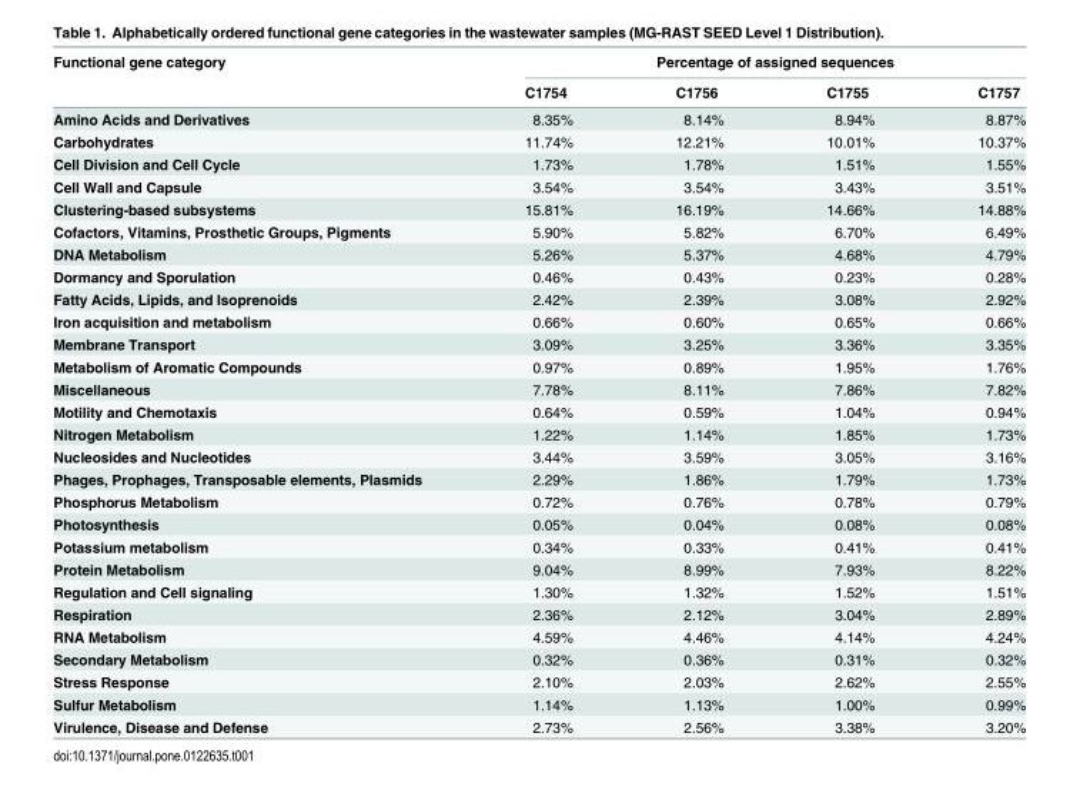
<table><thead><tr><td rowspan="2">Functional gene category</td><td colspan="4">Percentage of assigned sequences</td></tr><tr><td>C1754</td><td>C1756</td><td>C1755</td><td>C1757</td></tr></thead><tbody><tr><td>Amino Acids and Derivatives</td><td>8.35%</td><td>8.14%</td><td>8.94%</td><td>8.87%</td></tr><tr><td>Carbohydrates</td><td>11.74%</td><td>12.21%</td><td>10.01%</td><td>10.37%</td></tr><tr><td>Cell Division and Cell Cycle</td><td>1.73%</td><td>1.78%</td><td>1.51%</td><td>1.55%</td></tr><tr><td>Cell Wall and Capsule</td><td>3.54%</td><td>3.54%</td><td>3.43%</td><td>3.51%</td></tr><tr><td>Clustering-based subsystems</td><td>15.81%</td><td>16.19%</td><td>14.66%</td><td>14.88%</td></tr><tr><td>Cofactors, Vitamins, Prosthetic Groups, Pigments</td><td>5.90%</td><td>5.82%</td><td>6.70%</td><td>6.49%</td></tr><tr><td>DNA Metabolism</td><td>5.26%</td><td>5.37%</td><td>4.68%</td><td>4.79%</td></tr><tr><td>Dormancy and Sporulation</td><td>0.46%</td><td>0.43%</td><td>0.23%</td><td>0.28%</td></tr><tr><td>Fatty Acids, Lipids, and Isoprenoids</td><td>2.42%</td><td>2.39%</td><td>3.08%</td><td>2.92%</td></tr><tr><td>Iron acquisition and metabolism</td><td>0.66%</td><td>0.60%</td><td>0.65%</td><td>0.66%</td></tr><tr><td>Membrane Transport</td><td>3.09%</td><td>3.25%</td><td>3.36%</td><td>3.35%</td></tr><tr><td>Metabolism of Aromatic Compounds</td><td>0.97%</td><td>0.89%</td><td>1.95%</td><td>1.76%</td></tr><tr><td>Miscellaneous</td><td>7.78%</td><td>8.11%</td><td>7.86%</td><td>7.82%</td></tr><tr><td>Motility and Chemotaxis</td><td>0.64%</td><td>0.59%</td><td>1.04%</td><td>0.94%</td></tr><tr><td>Nitrogen Metabolism</td><td>1.22%</td><td>1.14%</td><td>1.85%</td><td>1.73%</td></tr><tr><td>Nucleosides and Nucleotides</td><td>3.44%</td><td>3.59%</td><td>3.05%</td><td>3.16%</td></tr><tr><td>Phages, Prophages, Transposable elements, Plasmids</td><td>2.29%</td><td>1.86%</td><td>1.79%</td><td>1.73%</td></tr><tr><td>Phosphorus Metabolism</td><td>0.72%</td><td>0.76%</td><td>0.78%</td><td>0.79%</td></tr><tr><td>Photosynthesis</td><td>0.05%</td><td>0.04%</td><td>0.08%</td><td>0.08%</td></tr><tr><td>Potassium metabolism</td><td>0.34%</td><td>0.33%</td><td>0.41%</td><td>0.41%</td></tr><tr><td>Protein Metabolism</td><td>9.04%</td><td>8.99%</td><td>7.93%</td><td>8.22%</td></tr><tr><td>Regulation and Cell signaling</td><td>1.30%</td><td>1.32%</td><td>1.52%</td><td>1.51%</td></tr><tr><td>Respiration</td><td>2.36%</td><td>2.12%</td><td>3.04%</td><td>2.89%</td></tr><tr><td>RNA Metabolism</td><td>4.59%</td><td>4.46%</td><td>4.14%</td><td>4.24%</td></tr><tr><td>Secondary Metabolism</td><td>0.32%</td><td>0.36%</td><td>0.31%</td><td>0.32%</td></tr><tr><td>Stress Response</td><td>2.10%</td><td>2.03%</td><td>2.62%</td><td>2.55%</td></tr><tr><td>Sulfur Metabolism</td><td>1.14%</td><td>1.13%</td><td>1.00%</td><td>0.99%</td></tr><tr><td>Virulence, Disease and Defense</td><td>2.73%</td><td>2.56%</td><td>3.38%</td><td>3.20%</td></tr></tbody></table>